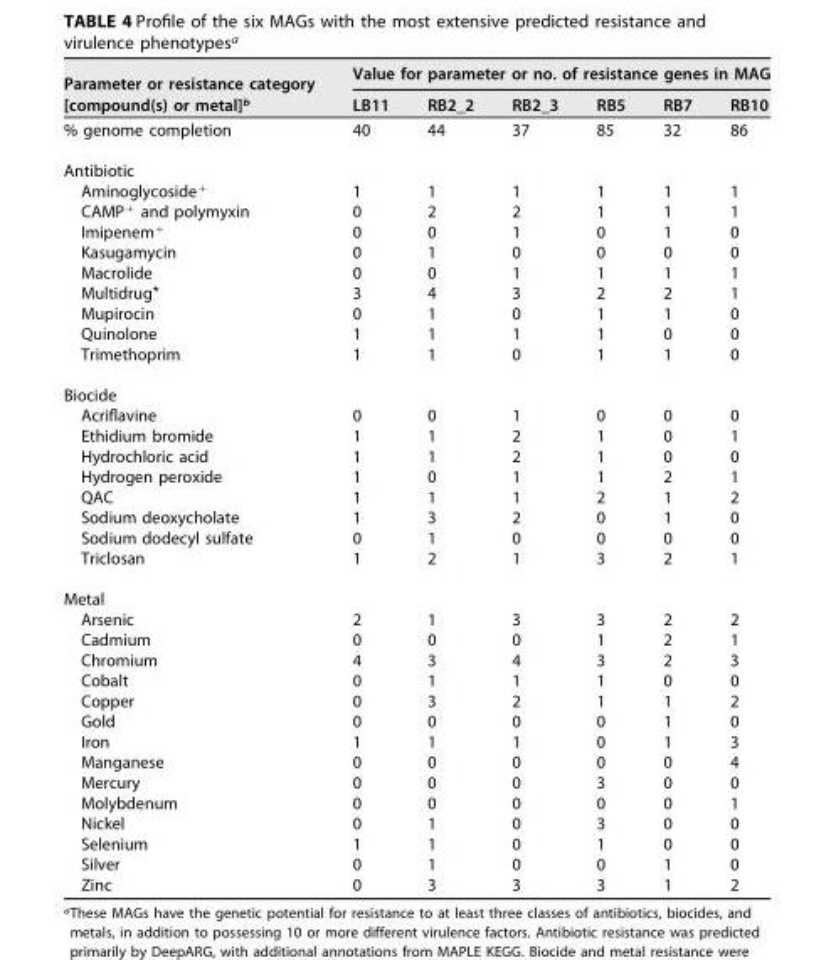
<table><thead><tr><td rowspan="2">Parameter or resistance category [compound(s) or metal]<sup>b</sup></td><td colspan="6">Value for parameter or no. of resistance genes in MAG</td></tr><tr><td>LB11</td><td>RB2_2</td><td>RB2_3</td><td>RB5</td><td>RB7</td><td>RB10</td></tr></thead><tbody><tr><td>% genome completion</td><td>40</td><td>44</td><td>37</td><td>85</td><td>32</td><td>86</td></tr><tr><td colspan="7">Antibiotic</td></tr><tr><td>Aminoglycoside<sup>+</sup></td><td>1</td><td>1</td><td>1</td><td>1</td><td>1</td><td>1</td></tr><tr><td>CAMP<sup>+</sup> and polymyxin</td><td>0</td><td>2</td><td>2</td><td>1</td><td>1</td><td>1</td></tr><tr><td>Imipenem<sup>+</sup></td><td>0</td><td>0</td><td>1</td><td>0</td><td>1</td><td>0</td></tr><tr><td>Kasugamycin</td><td>0</td><td>1</td><td>0</td><td>0</td><td>0</td><td>0</td></tr><tr><td>Macrolide</td><td>0</td><td>0</td><td>1</td><td>1</td><td>1</td><td>1</td></tr><tr><td>Multidrug*</td><td>3</td><td>4</td><td>3</td><td>2</td><td>2</td><td>1</td></tr><tr><td>Mupirocin</td><td>0</td><td>1</td><td>0</td><td>1</td><td>1</td><td>0</td></tr><tr><td>Quinolone</td><td>1</td><td>1</td><td>1</td><td>1</td><td>0</td><td>0</td></tr><tr><td>Trimethoprim</td><td>1</td><td>1</td><td>0</td><td>1</td><td>1</td><td>0</td></tr><tr><td colspan="7">Biocide</td></tr><tr><td>Acriflavine</td><td>0</td><td>0</td><td>1</td><td>0</td><td>0</td><td>0</td></tr><tr><td>Ethidium bromide</td><td>1</td><td>1</td><td>2</td><td>1</td><td>0</td><td>1</td></tr><tr><td>Hydrochloric acid</td><td>1</td><td>1</td><td>2</td><td>1</td><td>0</td><td>0</td></tr><tr><td>Hydrogen peroxide</td><td>1</td><td>0</td><td>1</td><td>1</td><td>2</td><td>1</td></tr><tr><td>QAC</td><td>1</td><td>1</td><td>1</td><td>2</td><td>1</td><td>2</td></tr><tr><td>Sodium deoxycholate</td><td>1</td><td>3</td><td>2</td><td>0</td><td>1</td><td>0</td></tr><tr><td>Sodium dodecyl sulfate</td><td>0</td><td>1</td><td>0</td><td>0</td><td>0</td><td>0</td></tr><tr><td>Triclosan</td><td>1</td><td>2</td><td>1</td><td>3</td><td>2</td><td>1</td></tr><tr><td colspan="7">Metal</td></tr><tr><td>Arsenic</td><td>2</td><td>1</td><td>3</td><td>3</td><td>2</td><td>2</td></tr><tr><td>Cadmium</td><td>0</td><td>0</td><td>0</td><td>1</td><td>2</td><td>1</td></tr><tr><td>Chromium</td><td>4</td><td>3</td><td>4</td><td>3</td><td>2</td><td>3</td></tr><tr><td>Cobalt</td><td>0</td><td>1</td><td>1</td><td>1</td><td>0</td><td>0</td></tr><tr><td>Copper</td><td>0</td><td>3</td><td>2</td><td>1</td><td>1</td><td>2</td></tr><tr><td>Gold</td><td>0</td><td>0</td><td>0</td><td>0</td><td>1</td><td>0</td></tr><tr><td>Iron</td><td>1</td><td>1</td><td>1</td><td>0</td><td>1</td><td>3</td></tr><tr><td>Manganese</td><td>0</td><td>0</td><td>0</td><td>0</td><td>0</td><td>4</td></tr><tr><td>Mercury</td><td>0</td><td>0</td><td>0</td><td>3</td><td>0</td><td>0</td></tr><tr><td>Molybdenum</td><td>0</td><td>0</td><td>0</td><td>0</td><td>0</td><td>1</td></tr><tr><td>Nickel</td><td>0</td><td>1</td><td>0</td><td>3</td><td>0</td><td>0</td></tr><tr><td>Selenium</td><td>1</td><td>1</td><td>0</td><td>1</td><td>0</td><td>0</td></tr><tr><td>Silver</td><td>0</td><td>1</td><td>0</td><td>0</td><td>1</td><td>0</td></tr><tr><td>Zinc</td><td>0</td><td>3</td><td>3</td><td>3</td><td>1</td><td>2</td></tr></tbody></table>